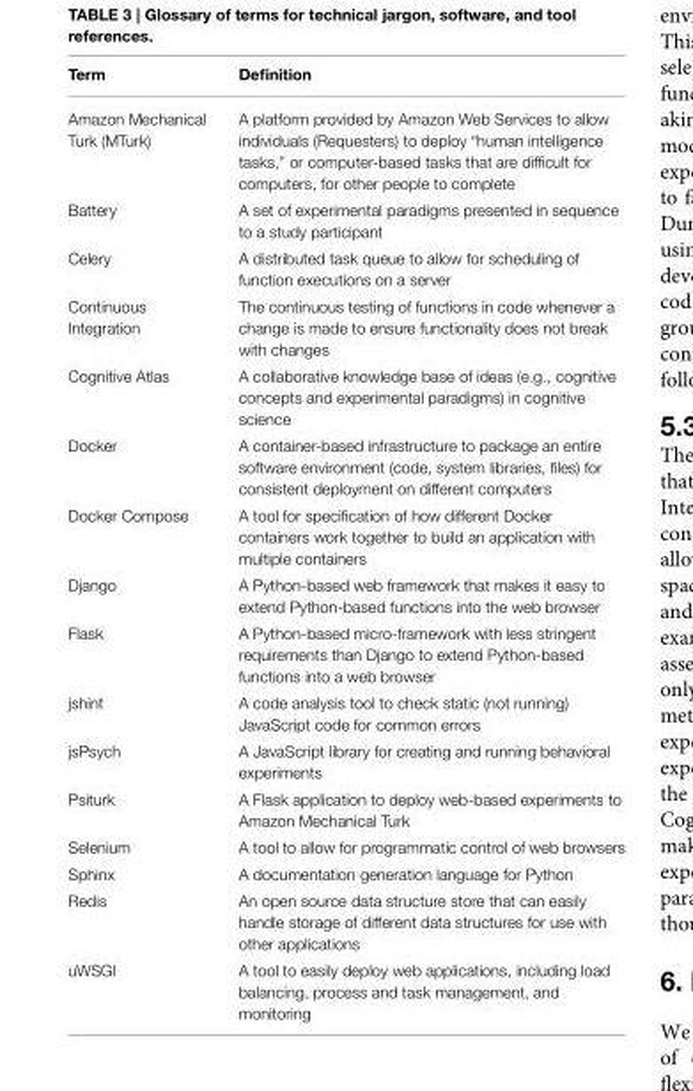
<table><thead><tr><td>Term</td><td>Definition</td></tr></thead><tbody><tr><td>Amazon Mechanical Turk (MTurk)</td><td>A platform provided by Amazon Web Services to allow individuals (Requesters) to deploy “human intelligence tasks,” or computer-based tasks that are difficult for computers, for other people to complete</td></tr><tr><td>Battery</td><td>A set of experimental paradigms presented in sequence to a study participant</td></tr><tr><td>Celery</td><td>A distributed task queue to allow for scheduling of function executions on a server</td></tr><tr><td>Continuous Integration</td><td>The continuous testing of functions in code whenever a change is made to ensure functionality does not break with changes</td></tr><tr><td>Cognitive Atlas</td><td>A collaborative knowledge base of ideas (e.g., cognitive concepts and experimental paradigms) in cognitive science</td></tr><tr><td>Docker</td><td>A container-based infrastructure to package an entire software environment (code, system libraries, files) for consistent deployment on different computers</td></tr><tr><td>Docker Compose</td><td>A tool for specification of how different Docker containers work together to build an application with multiple containers</td></tr><tr><td>Django</td><td>A Python-based web framework that makes it easy to extend Python-based functions into the web browser</td></tr><tr><td>Flask</td><td>A Python-based micro-framework with less stringent requirements than Django to extend Python-based functions into a web browser</td></tr><tr><td>jshint</td><td>A code analysis tool to check static (not running) JavaScript code for common errors</td></tr><tr><td>jsPsych</td><td>A JavaScript library for creating and running behavioral experiments</td></tr><tr><td>Psiturk</td><td>A Flask application to deploy web-based experiments to Amazon Mechanical Turk</td></tr><tr><td>Selenium</td><td>A tool to allow for programmatic control of web browsers</td></tr><tr><td>Sphinx</td><td>A documentation generation language for Python</td></tr><tr><td>Redis</td><td>An open source data structure store that can easily handle storage of different data structures for use with other applications</td></tr><tr><td>uWSGI</td><td>A tool to easily deploy web applications, including load balancing, process and task management, and monitoring</td></tr></tbody></table>